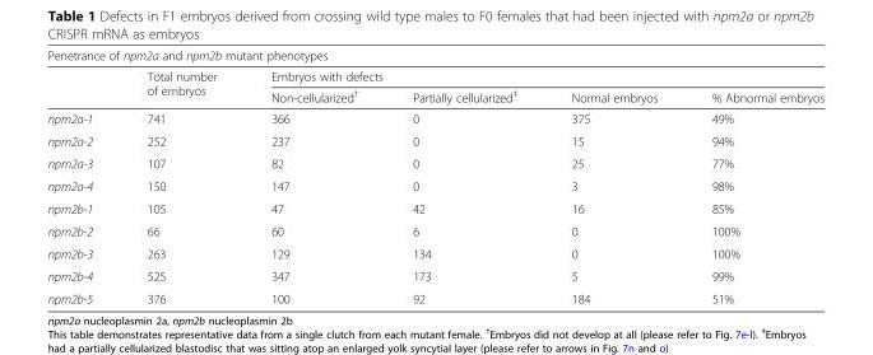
<table><thead><tr><td colspan="6">Penetrance of npm2a and npm2b mutant phenotypes</td></tr><tr><td rowspan="2"></td><td rowspan="2">Total number of embryos</td><td colspan="4">Embryos with defects</td></tr><tr><td>Non-cellularized<sup>†</sup></td><td>Partially cellularized<sup>‡</sup></td><td>Normal embryos</td><td>% Abnormal embryos</td></tr></thead><tbody><tr><td>npm2a-1</td><td>741</td><td>366</td><td>0</td><td>375</td><td>49%</td></tr><tr><td>npm2a-2</td><td>252</td><td>237</td><td>0</td><td>15</td><td>94%</td></tr><tr><td>npm2a-3</td><td>107</td><td>82</td><td>0</td><td>25</td><td>77%</td></tr><tr><td>npm2a-4</td><td>150</td><td>147</td><td>0</td><td>3</td><td>98%</td></tr><tr><td>npm2b-1</td><td>105</td><td>47</td><td>42</td><td>16</td><td>85%</td></tr><tr><td>npm2b-2</td><td>66</td><td>60</td><td>6</td><td>0</td><td>100%</td></tr><tr><td>npm2b-3</td><td>263</td><td>129</td><td>134</td><td>0</td><td>100%</td></tr><tr><td>npm2b-4</td><td>525</td><td>347</td><td>173</td><td>5</td><td>99%</td></tr><tr><td>npm2b-5</td><td>376</td><td>100</td><td>92</td><td>184</td><td>51%</td></tr></tbody></table>